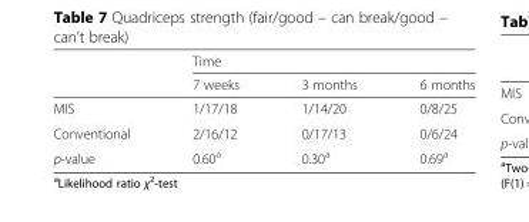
<table><thead><tr><td rowspan="2"></td><td colspan="3">Time</td></tr><tr><td>7 weeks</td><td>3 months</td><td>6 months</td></tr></thead><tbody><tr><td>MIS</td><td>1/17/18</td><td>1/14/20</td><td>0/8/25</td></tr><tr><td>Conventional</td><td>2/16/12</td><td>0/17/13</td><td>0/6/24</td></tr><tr><td>p-value</td><td>0.60<sup>a</sup></td><td>0.30<sup>a</sup></td><td>0.69<sup>a</sup></td></tr></tbody></table>